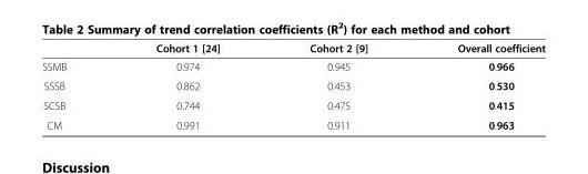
<table><thead><tr><td></td><td>Cohort 1 [24]</td><td>Cohort 2 [9]</td><td>Overall coefficient</td></tr></thead><tbody><tr><td>SSMB</td><td>0.974</td><td>0.945</td><td>0.966</td></tr><tr><td>SSSB</td><td>0.862</td><td>0.453</td><td>0.530</td></tr><tr><td>SCSB</td><td>0.744</td><td>0.475</td><td>0.415</td></tr><tr><td>CM</td><td>0.991</td><td>0.911</td><td>0.963</td></tr></tbody></table>